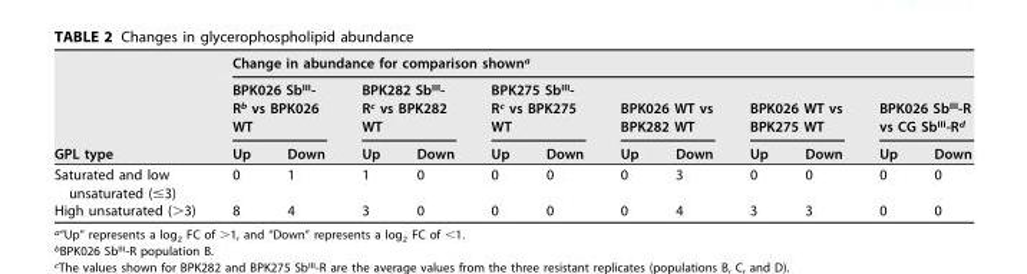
<table><thead><tr><td rowspan="3">GPL type</td><td colspan="12">Change in abundance for comparison shown<sup>a</sup></td></tr><tr><td colspan="2">BPK026 Sb<sup>III</sup>- R<sup>b</sup> vs BPK026 WT</td><td colspan="2">BPK282 Sb<sup>III</sup>- R<sup>c</sup> vs BPK282 WT</td><td colspan="2">BPK275 Sb<sup>III</sup>- R<sup>c</sup> vs BPK275 WT</td><td colspan="2">BPK026 WT vs BPK282 WT</td><td colspan="2">BPK026 WT vs BPK275 WT</td><td colspan="2">BPK026 Sb<sup>III</sup>-R vs CG Sb<sup>III</sup>-R<sup>d</sup></td></tr><tr><td>Up</td><td>Down</td><td>Up</td><td>Down</td><td>Up</td><td>Down</td><td>Up</td><td>Down</td><td>Up</td><td>Down</td><td>Up</td><td>Down</td></tr></thead><tbody><tr><td>Saturated and low unsaturated (≤3)</td><td>0</td><td>1</td><td>1</td><td>0</td><td>0</td><td>0</td><td>0</td><td>3</td><td>0</td><td>0</td><td>0</td><td>0</td></tr><tr><td>High unsaturated (&gt;3)</td><td>8</td><td>4</td><td>3</td><td>0</td><td>0</td><td>0</td><td>0</td><td>4</td><td>3</td><td>3</td><td>0</td><td>0</td></tr></tbody></table>